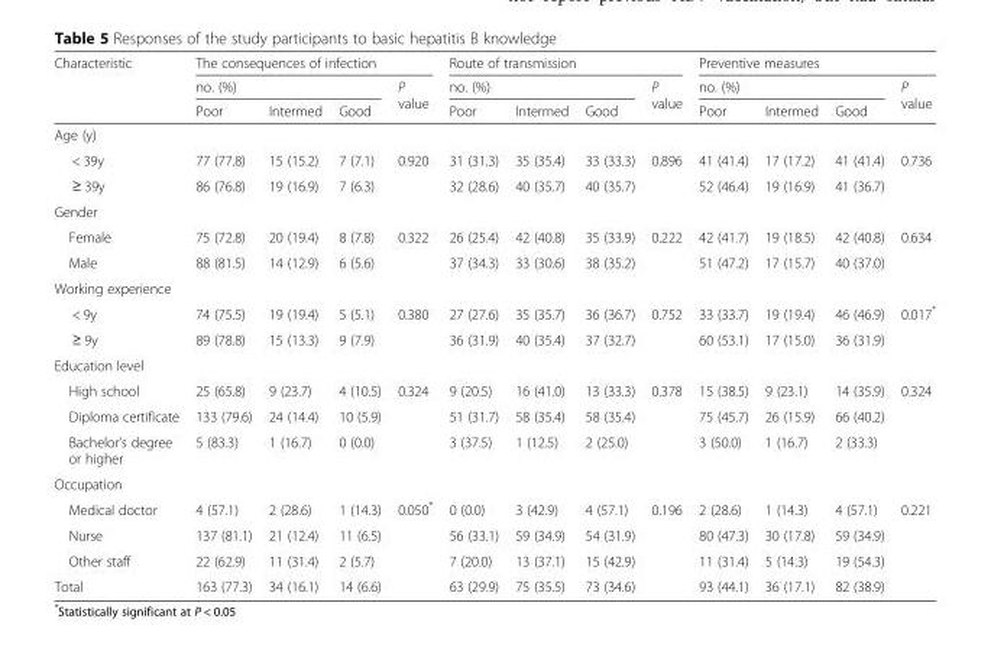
<table><thead><tr><td rowspan="3">Characteristic</td><td colspan="4">The consequences of infection</td><td colspan="4">Route of transmission</td><td colspan="4">Preventive measures</td></tr><tr><td colspan="3">no. (%)</td><td rowspan="2">P value</td><td colspan="3">no. (%)</td><td rowspan="2">P value</td><td colspan="3">no. (%)</td><td rowspan="2">P value</td></tr><tr><td>Poor</td><td>Intermed</td><td>Good</td><td>Poor</td><td>Intermed</td><td>Good</td><td>Poor</td><td>Intermed</td><td>Good</td></tr></thead><tbody><tr><td colspan="13">Age (y)</td></tr><tr><td>&lt; 39y</td><td>77 (77.8)</td><td>15 (15.2)</td><td>7 (7.1)</td><td rowspan="2">0.920</td><td>31 (31.3)</td><td>35 (35.4)</td><td>33 (33.3)</td><td rowspan="2">0.896</td><td>41 (41.4)</td><td>17 (17.2)</td><td>41 (41.4)</td><td rowspan="2">0.736</td></tr><tr><td>≥ 39y</td><td>86 (76.8)</td><td>19 (16.9)</td><td>7 (6.3)</td><td>32 (28.6)</td><td>40 (35.7)</td><td>40 (35.7)</td><td>52 (46.4)</td><td>19 (16.9)</td><td>41 (36.7)</td></tr><tr><td colspan="13">Gender</td></tr><tr><td>Female</td><td>75 (72.8)</td><td>20 (19.4)</td><td>8 (7.8)</td><td rowspan="2">0.322</td><td>26 (25.4)</td><td>42 (40.8)</td><td>35 (33.9)</td><td rowspan="2">0.222</td><td>42 (41.7)</td><td>19 (18.5)</td><td>42 (40.8)</td><td rowspan="2">0.634</td></tr><tr><td>Male</td><td>88 (81.5)</td><td>14 (12.9)</td><td>6 (5.6)</td><td>37 (34.3)</td><td>33 (30.6)</td><td>38 (35.2)</td><td>51 (47.2)</td><td>17 (15.7)</td><td>40 (37.0)</td></tr><tr><td colspan="13">Working experience</td></tr><tr><td>&lt; 9y</td><td>74 (75.5)</td><td>19 (19.4)</td><td>5 (5.1)</td><td rowspan="2">0.380</td><td>27 (27.6)</td><td>35 (35.7)</td><td>36 (36.7)</td><td rowspan="2">0.752</td><td>33 (33.7)</td><td>19 (19.4)</td><td>46 (46.9)</td><td rowspan="2">0.017*</td></tr><tr><td>≥ 9y</td><td>89 (78.8)</td><td>15 (13.3)</td><td>9 (7.9)</td><td>36 (31.9)</td><td>40 (35.4)</td><td>37 (32.7)</td><td>60 (53.1)</td><td>17 (15.0)</td><td>36 (31.9)</td></tr><tr><td colspan="13">Education level</td></tr><tr><td>High school</td><td>25 (65.8)</td><td>9 (23.7)</td><td>4 (10.5)</td><td rowspan="3">0.324</td><td>9 (20.5)</td><td>16 (41.0)</td><td>13 (33.3)</td><td rowspan="3">0.378</td><td>15 (38.5)</td><td>9 (23.1)</td><td>14 (35.9)</td><td rowspan="3">0.324</td></tr><tr><td>Diploma certificate</td><td>133 (79.6)</td><td>24 (14.4)</td><td>10 (5.9)</td><td>51 (31.7)</td><td>58 (35.4)</td><td>58 (35.4)</td><td>75 (45.7)</td><td>26 (15.9)</td><td>66 (40.2)</td></tr><tr><td>Bachelor’s degree or higher</td><td>5 (83.3)</td><td>1 (16.7)</td><td>0 (0.0)</td><td>3 (37.5)</td><td>1 (12.5)</td><td>2 (25.0)</td><td>3 (50.0)</td><td>1 (16.7)</td><td>2 (33.3)</td></tr><tr><td colspan="13">Occupation</td></tr><tr><td>Medical doctor</td><td>4 (57.1)</td><td>2 (28.6)</td><td>1 (14.3)</td><td rowspan="3">0.050*</td><td>0 (0.0)</td><td>3 (42.9)</td><td>4 (57.1)</td><td rowspan="3">0.196</td><td>2 (28.6)</td><td>1 (14.3)</td><td>4 (57.1)</td><td rowspan="3">0.221</td></tr><tr><td>Nurse</td><td>137 (81.1)</td><td>21 (12.4)</td><td>11 (6.5)</td><td>56 (33.1)</td><td>59 (34.9)</td><td>54 (31.9)</td><td>80 (47.3)</td><td>30 (17.8)</td><td>59 (34.9)</td></tr><tr><td>Other staff</td><td>22 (62.9)</td><td>11 (31.4)</td><td>2 (5.7)</td><td>7 (20.0)</td><td>13 (37.1)</td><td>15 (42.9)</td><td>11 (31.4)</td><td>5 (14.3)</td><td>19 (54.3)</td></tr><tr><td>Total</td><td>163 (77.3)</td><td>34 (16.1)</td><td>14 (6.6)</td><td></td><td>63 (29.9)</td><td>75 (35.5)</td><td>73 (34.6)</td><td></td><td>93 (44.1)</td><td>36 (17.1)</td><td>82 (38.9)</td><td></td></tr></tbody></table>